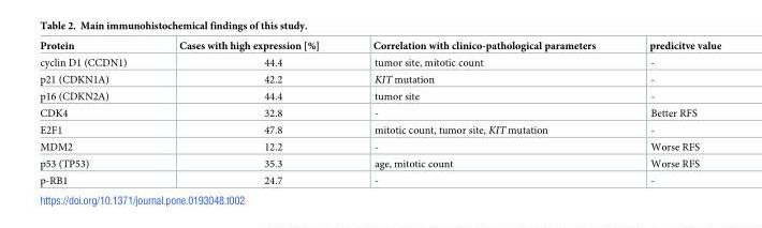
<table><thead><tr><td>Protein</td><td>Cases with high expression [%]</td><td>Correlation with clinico-pathological parameters</td><td>predicitve value</td></tr></thead><tbody><tr><td>cyclin D1 (CCDN1)</td><td>44.4</td><td>tumor site, mitotic count</td><td>-</td></tr><tr><td>p21 (CDKN1A)</td><td>42.2</td><td>KIT mutation</td><td>-</td></tr><tr><td>p16 (CDKN2A)</td><td>44.4</td><td>tumor site</td><td>-</td></tr><tr><td>CDK4</td><td>32.8</td><td>-</td><td>Better RFS</td></tr><tr><td>E2F1</td><td>47.8</td><td>mitotic count, tumor site, KIT mutation</td><td>-</td></tr><tr><td>MDM2</td><td>12.2</td><td>-</td><td>Worse RFS</td></tr><tr><td>p53 (TP53)</td><td>35.3</td><td>age, mitotic count</td><td>Worse RFS</td></tr><tr><td>p-RB1</td><td>24.7</td><td>-</td><td>-</td></tr></tbody></table>